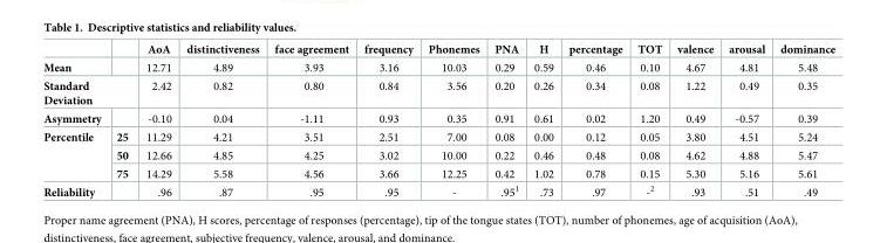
<table><thead><tr><td></td><td></td><td>AoA</td><td>distinctiveness</td><td>face agreement</td><td>frequency</td><td>Phonemes</td><td>PNA</td><td>H</td><td>percentage</td><td>TOT</td><td>valence</td><td>arousal</td><td>dominance</td></tr></thead><tbody><tr><td>Mean</td><td></td><td>12.71</td><td>4.89</td><td>3.93</td><td>3.16</td><td>10.03</td><td>0.29</td><td>0.59</td><td>0.46</td><td>0.10</td><td>4.67</td><td>4.81</td><td>5.48</td></tr><tr><td colspan="2">Standard Deviation</td><td>2.42</td><td>0.82</td><td>0.80</td><td>0.84</td><td>3.56</td><td>0.20</td><td>0.26</td><td>0.34</td><td>0.08</td><td>1.22</td><td>0.49</td><td>0.35</td></tr><tr><td>Asymmetry</td><td></td><td>-0.10</td><td>0.04</td><td>-1.11</td><td>0.93</td><td>0.35</td><td>0.91</td><td>0.61</td><td>0.02</td><td>1.20</td><td>0.49</td><td>-0.57</td><td>0.39</td></tr><tr><td rowspan="3">Percentile</td><td>25</td><td>11.29</td><td>4.21</td><td>3.51</td><td>2.51</td><td>7.00</td><td>0.08</td><td>0.00</td><td>0.12</td><td>0.05</td><td>3.80</td><td>4.51</td><td>5.24</td></tr><tr><td>50</td><td>12.66</td><td>4.85</td><td>4.25</td><td>3.02</td><td>10.00</td><td>0.22</td><td>0.46</td><td>0.48</td><td>0.08</td><td>4.62</td><td>4.88</td><td>5.47</td></tr><tr><td>75</td><td>14.29</td><td>5.58</td><td>4.56</td><td>3.66</td><td>12.25</td><td>0.42</td><td>1.02</td><td>0.78</td><td>0.15</td><td>5.30</td><td>5.16</td><td>5.61</td></tr><tr><td>Reliability</td><td></td><td>.96</td><td>.87</td><td>.95</td><td>.95</td><td>-</td><td>.95<sup>1</sup></td><td>.73</td><td>.97</td><td>-<sup>2</sup></td><td>.93</td><td>.51</td><td>.49</td></tr></tbody></table>